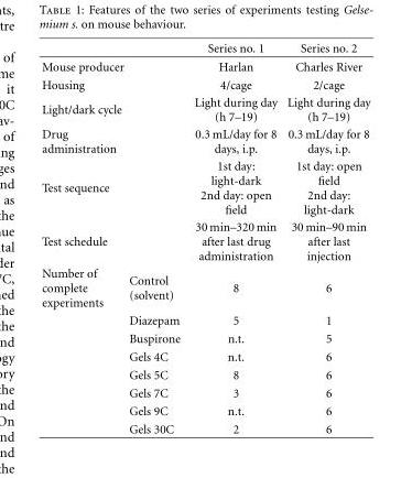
<table><thead><tr><td></td><td></td><td>Series no. 1</td><td>Series no. 2</td></tr></thead><tbody><tr><td>Mouse producer</td><td></td><td>Harlan</td><td>Charles River</td></tr><tr><td>Housing</td><td></td><td>4/cage</td><td>2/cage</td></tr><tr><td>Light/dark cycle</td><td></td><td>Light during day (h 7–19)</td><td>Light during day (h 7–19)</td></tr><tr><td>Drug administration</td><td></td><td>0.3 mL/day for 8 days, i.p.</td><td>0.3 mL/day for 8 days, i.p.</td></tr><tr><td>Test sequence</td><td></td><td>1st day: light-dark 2nd day: open field</td><td>1st day: open field 2nd day: light-dark</td></tr><tr><td>Test schedule</td><td></td><td>30 min–320 min after last drug administration</td><td>30 min–90 min after last injection</td></tr><tr><td rowspan="8">Number of complete experiments</td><td>Control (solvent)</td><td>8</td><td>6</td></tr><tr><td>Diazepam</td><td>5</td><td>1</td></tr><tr><td>Buspirone</td><td>n.t.</td><td>5</td></tr><tr><td>Gels 4C</td><td>n.t.</td><td>6</td></tr><tr><td>Gels 5C</td><td>8</td><td>6</td></tr><tr><td>Gels 7C</td><td>3</td><td>6</td></tr><tr><td>Gels 9C</td><td>n.t.</td><td>6</td></tr><tr><td>Gels 30C</td><td>2</td><td>6</td></tr></tbody></table>